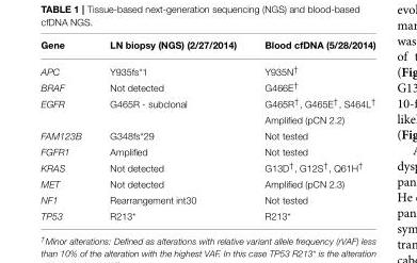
<table><thead><tr><td>Gene</td><td>LN biopsy (NGS) (2/27/2014)</td><td>Blood cfDNA (5/28/2014)</td></tr></thead><tbody><tr><td>APC</td><td>Y935fs*1</td><td>Y935N<sup>†</sup></td></tr><tr><td>BRAF</td><td>Not detected</td><td>G466E<sup>†</sup></td></tr><tr><td rowspan="2">EGFR</td><td>G465R - subclonal</td><td>G465R<sup>†</sup>, G465E<sup>†</sup>, S464L<sup>†</sup></td></tr><tr><td></td><td>Amplified (pCN 2.2)</td></tr><tr><td>FAM123B</td><td>G348fs*29</td><td>Not tested</td></tr><tr><td>FGFR1</td><td>Amplified</td><td>Not tested</td></tr><tr><td>KRAS</td><td>Not detected</td><td>G13D<sup>†</sup>, G12S<sup>†</sup>, Q61H<sup>†</sup></td></tr><tr><td>MET</td><td>Not detected</td><td>Amplified (pCN 2.3)</td></tr><tr><td>NF1</td><td>Rearrangement int30</td><td>Not tested</td></tr><tr><td>TP53</td><td>R213*</td><td>R213*</td></tr></tbody></table>